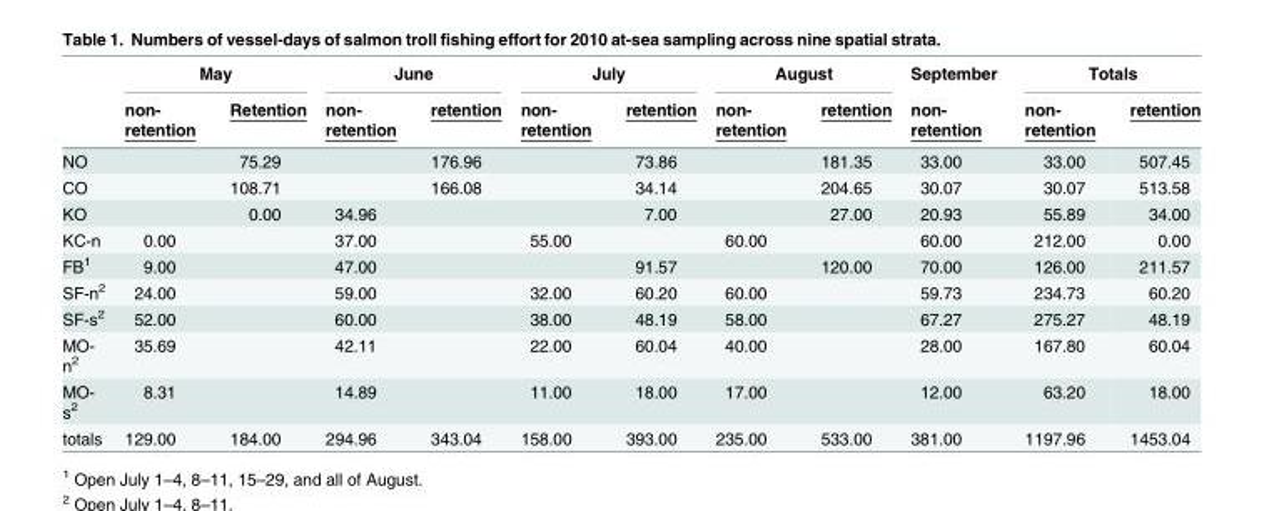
<table><thead><tr><td rowspan="2"></td><td colspan="2">May</td><td colspan="2">June</td><td colspan="2">July</td><td colspan="2">August</td><td rowspan="2">September non- retention</td><td colspan="2">Totals</td></tr><tr><td>non- retention</td><td>Retention</td><td>non- retention</td><td>retention</td><td>non- retention</td><td>retention</td><td>non- retention</td><td>retention</td><td>non- retention</td><td>retention</td></tr></thead><tbody><tr><td>NO</td><td></td><td>75.29</td><td></td><td>176.96</td><td></td><td>73.86</td><td></td><td>181.35</td><td>33.00</td><td>33.00</td><td>507.45</td></tr><tr><td>CO</td><td></td><td>108.71</td><td></td><td>166.08</td><td></td><td>34.14</td><td></td><td>204.65</td><td>30.07</td><td>30.07</td><td>513.58</td></tr><tr><td>KO</td><td></td><td>0.00</td><td>34.96</td><td></td><td></td><td>7.00</td><td></td><td>27.00</td><td>20.93</td><td>55.89</td><td>34.00</td></tr><tr><td>KC-n</td><td>0.00</td><td></td><td>37.00</td><td></td><td>55.00</td><td></td><td>60.00</td><td></td><td>60.00</td><td>212.00</td><td>0.00</td></tr><tr><td>FB<sup>1</sup></td><td>9.00</td><td></td><td>47.00</td><td></td><td></td><td>91.57</td><td></td><td>120.00</td><td>70.00</td><td>126.00</td><td>211.57</td></tr><tr><td>SF-n<sup>2</sup></td><td>24.00</td><td></td><td>59.00</td><td></td><td>32.00</td><td>60.20</td><td>60.00</td><td></td><td>59.73</td><td>234.73</td><td>60.20</td></tr><tr><td>SF-s<sup>2</sup></td><td>52.00</td><td></td><td>60.00</td><td></td><td>38.00</td><td>48.19</td><td>58.00</td><td></td><td>67.27</td><td>275.27</td><td>48.19</td></tr><tr><td>MO- n<sup>2</sup></td><td>35.69</td><td></td><td>42.11</td><td></td><td>22.00</td><td>60.04</td><td>40.00</td><td></td><td>28.00</td><td>167.80</td><td>60.04</td></tr><tr><td>MO- s<sup>2</sup></td><td>8.31</td><td></td><td>14.89</td><td></td><td>11.00</td><td>18.00</td><td>17.00</td><td></td><td>12.00</td><td>63.20</td><td>18.00</td></tr><tr><td>totals</td><td>129.00</td><td>184.00</td><td>294.96</td><td>343.04</td><td>158.00</td><td>393.00</td><td>235.00</td><td>533.00</td><td>381.00</td><td>1197.96</td><td>1453.04</td></tr></tbody></table>